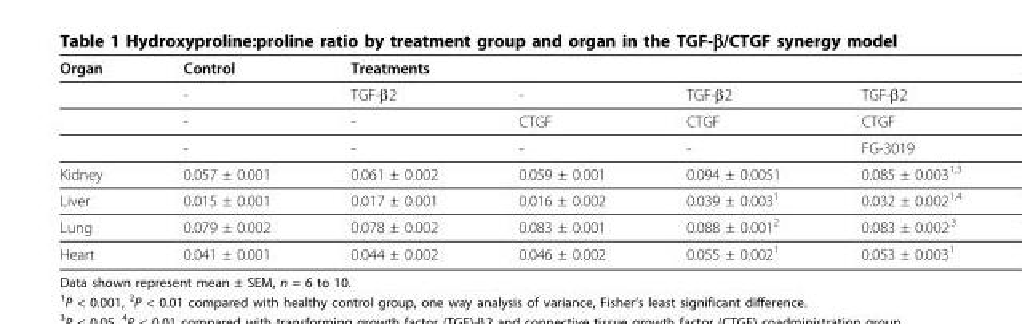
<table><thead><tr><td rowspan="2">Organ</td><td rowspan="2">Control -</td><td colspan="4">Treatments</td></tr><tr><td>TGF-β2</td><td>-</td><td>TGF-β2</td><td>TGF-β2</td></tr></thead><tbody><tr><td></td><td>-</td><td>-</td><td>CTGF</td><td>CTGF</td><td>CTGF</td></tr><tr><td></td><td>-</td><td>-</td><td>-</td><td>-</td><td>FG-3019</td></tr><tr><td>Kidney</td><td>0.057 ± 0.001</td><td>0.061 ± 0.002</td><td>0.059 ± 0.001</td><td>0.094 ± 0.0051</td><td>0.085 ± 0.003<sup>1,3</sup></td></tr><tr><td>Liver</td><td>0.015 ± 0.001</td><td>0.017 ± 0.001</td><td>0.016 ± 0.002</td><td>0.039 ± 0.003<sup>1</sup></td><td>0.032 ± 0.002<sup>1,4</sup></td></tr><tr><td>Lung</td><td>0.079 ± 0.002</td><td>0.078 ± 0.002</td><td>0.083 ± 0.001</td><td>0.088 ± 0.001<sup>2</sup></td><td>0.083 ± 0.002<sup>,3</sup></td></tr><tr><td>Heart</td><td>0.041 ± 0.001</td><td>0.044 ± 0.002</td><td>0.046 ± 0.002</td><td>0.055 ± 0.002<sup>1</sup></td><td>0.053 ± 0.003<sup>1</sup></td></tr></tbody></table>